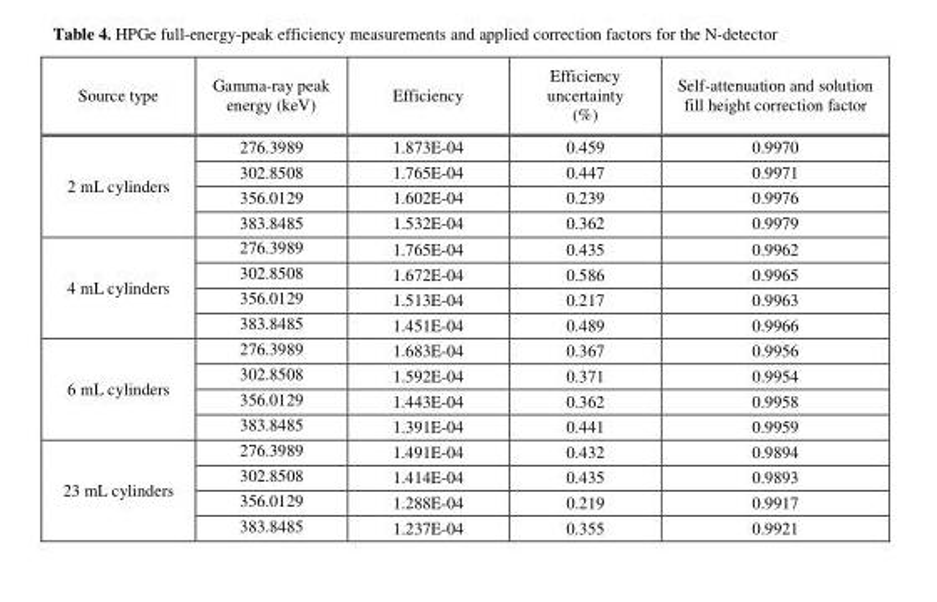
<table><thead><tr><td>Source type</td><td>Gamma-ray peak energy (keV)</td><td>Efficiency</td><td>Efficiency uncertainty (%)</td><td>Self-attenuation and solution fill height correction factor</td></tr></thead><tbody><tr><td rowspan="4">2 mL cylinders</td><td>276.3989</td><td>1.873E-04</td><td>0.459</td><td>0.9970</td></tr><tr><td>302.8508</td><td>1.765E-04</td><td>0.447</td><td>0.9971</td></tr><tr><td>356.0129</td><td>1.602E-04</td><td>0.239</td><td>0.9976</td></tr><tr><td>383.8485</td><td>1.532E-04</td><td>0.362</td><td>0.9979</td></tr><tr><td rowspan="4">4 mL cylinders</td><td>276.3989</td><td>1.765E-04</td><td>0.435</td><td>0.9962</td></tr><tr><td>302.8508</td><td>1.672E-04</td><td>0.586</td><td>0.9965</td></tr><tr><td>356.0129</td><td>1.513E-04</td><td>0.217</td><td>0.9963</td></tr><tr><td>383.8485</td><td>1.451E-04</td><td>0.489</td><td>0.9966</td></tr><tr><td rowspan="4">6 mL cylinders</td><td>276.3989</td><td>1.683E-04</td><td>0.367</td><td>0.9956</td></tr><tr><td>302.8508</td><td>1.592E-04</td><td>0.371</td><td>0.9954</td></tr><tr><td>356.0129</td><td>1.443E-04</td><td>0.362</td><td>0.9958</td></tr><tr><td>383.8485</td><td>1.391E-04</td><td>0.441</td><td>0.9959</td></tr><tr><td rowspan="4">23 mL cylinders</td><td>276.3989</td><td>1.491E-04</td><td>0.432</td><td>0.9894</td></tr><tr><td>302.8508</td><td>1.414E-04</td><td>0.435</td><td>0.9893</td></tr><tr><td>356.0129</td><td>1.288E-04</td><td>0.219</td><td>0.9917</td></tr><tr><td>383.8485</td><td>1.237E-04</td><td>0.355</td><td>0.9921</td></tr></tbody></table>